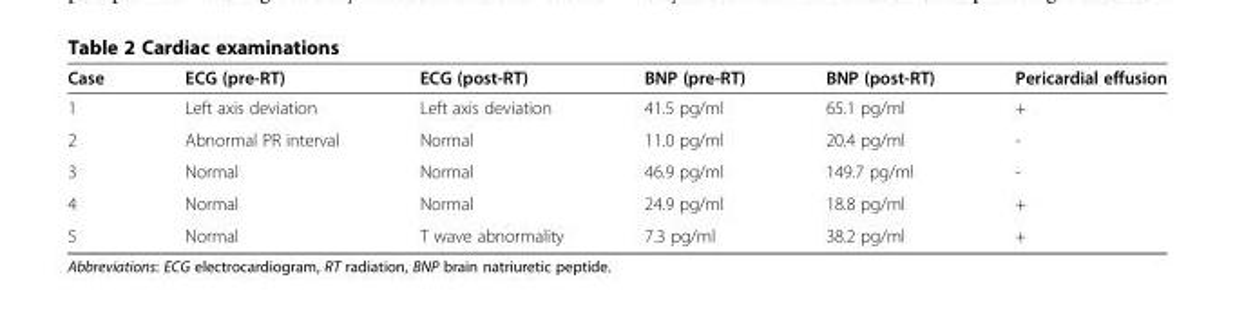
<table><thead><tr><td>Case</td><td>ECG (pre-RT)</td><td>ECG (post-RT)</td><td>BNP (pre-RT)</td><td>BNP (post-RT)</td><td>Pericardial effusion</td></tr></thead><tbody><tr><td>1</td><td>Left axis deviation</td><td>Left axis deviation</td><td>41.5 pg/ml</td><td>65.1 pg/ml</td><td>+</td></tr><tr><td>2</td><td>Abnormal PR interval</td><td>Normal</td><td>11.0 pg/ml</td><td>20.4 pg/ml</td><td>-</td></tr><tr><td>3</td><td>Normal</td><td>Normal</td><td>46.9 pg/ml</td><td>149.7 pg/ml</td><td>-</td></tr><tr><td>4</td><td>Normal</td><td>Normal</td><td>24.9 pg/ml</td><td>18.8 pg/ml</td><td>+</td></tr><tr><td>5</td><td>Normal</td><td>T wave abnormality</td><td>7.3 pg/ml</td><td>38.2 pg/ml</td><td>+</td></tr></tbody></table>